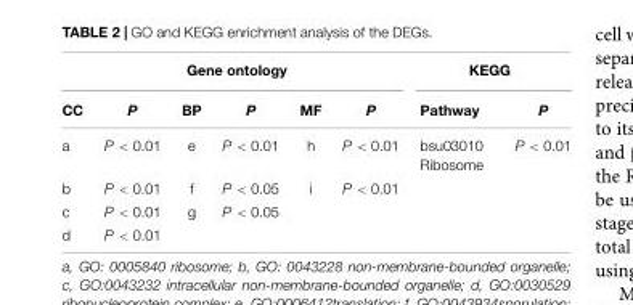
<table><thead><tr><td colspan="6">Gene ontology</td><td colspan="2">KEGG</td></tr><tr><td>CC</td><td>P</td><td>BP</td><td>P</td><td>MF</td><td>P</td><td>Pathway</td><td>P</td></tr></thead><tbody><tr><td>a</td><td>P &lt; 0.01</td><td>e</td><td>P &lt; 0.01</td><td>h</td><td>P &lt; 0.01</td><td>bsu03010 Ribosome</td><td>P &lt; 0.01</td></tr><tr><td>b</td><td>P &lt; 0.01</td><td>f</td><td>P &lt; 0.05</td><td>i</td><td>P &lt; 0.01</td><td></td><td></td></tr><tr><td>c</td><td>P &lt; 0.01</td><td>g</td><td>P &lt; 0.05</td><td></td><td></td><td></td><td></td></tr><tr><td>d</td><td>P &lt; 0.01</td><td></td><td></td><td></td><td></td><td></td><td></td></tr></tbody></table>